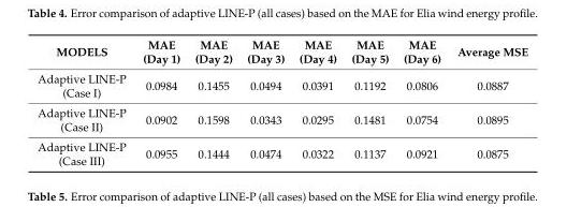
<table><thead><tr><td>MODELS</td><td>MAE (Day 1)</td><td>MAE (Day 2)</td><td>MAE (Day 3)</td><td>MAE (Day 4)</td><td>MAE (Day 5)</td><td>MAE (Day 6)</td><td>Average MSE</td></tr></thead><tbody><tr><td>Adaptive LINE-P (Case I)</td><td>0.0984</td><td>0.1455</td><td>0.0494</td><td>0.0391</td><td>0.1192</td><td>0.0806</td><td>0.0887</td></tr><tr><td>Adaptive LINE-P (Case II)</td><td>0.0902</td><td>0.1598</td><td>0.0343</td><td>0.0295</td><td>0.1481</td><td>0.0754</td><td>0.0895</td></tr><tr><td>Adaptive LINE-P (Case III)</td><td>0.0955</td><td>0.1444</td><td>0.0474</td><td>0.0322</td><td>0.1137</td><td>0.0921</td><td>0.0875</td></tr></tbody></table>